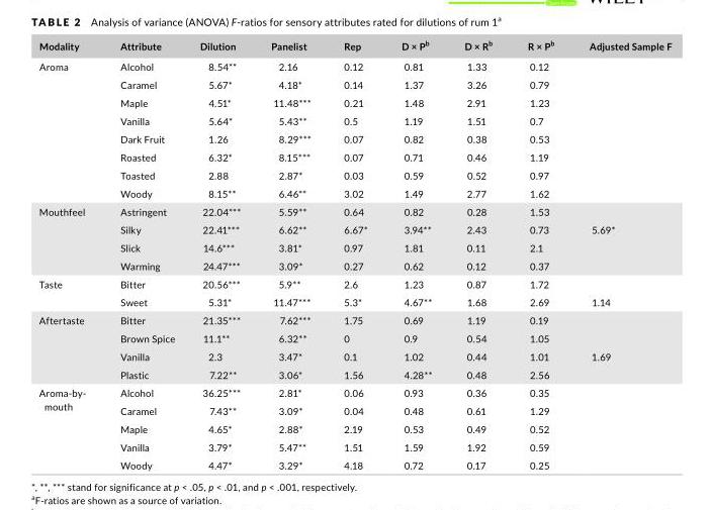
<table><thead><tr><td>Modality</td><td>Attribute</td><td>Dilution</td><td>Panelist</td><td>Rep</td><td>D × P<sup>b</sup></td><td>D × R<sup>b</sup></td><td>R × P<sup>b</sup></td><td>Adjusted Sample F</td></tr></thead><tbody><tr><td rowspan="8">Aroma</td><td>Alcohol</td><td>8.54**</td><td>2.16</td><td>0.12</td><td>0.81</td><td>1.33</td><td>0.12</td><td></td></tr><tr><td>Caramel</td><td>5.67*</td><td>4.18*</td><td>0.14</td><td>1.37</td><td>3.26</td><td>0.79</td><td></td></tr><tr><td>Maple</td><td>4.51*</td><td>11.48***</td><td>0.21</td><td>1.48</td><td>2.91</td><td>1.23</td><td></td></tr><tr><td>Vanilla</td><td>5.64*</td><td>5.43**</td><td>0.5</td><td>1.19</td><td>1.51</td><td>0.7</td><td></td></tr><tr><td>Dark Fruit</td><td>1.26</td><td>8.29***</td><td>0.07</td><td>0.82</td><td>0.38</td><td>0.53</td><td></td></tr><tr><td>Roasted</td><td>6.32*</td><td>8.15***</td><td>0.07</td><td>0.71</td><td>0.46</td><td>1.19</td><td></td></tr><tr><td>Toasted</td><td>2.88</td><td>2.87*</td><td>0.03</td><td>0.59</td><td>0.52</td><td>0.97</td><td></td></tr><tr><td>Woody</td><td>8.15**</td><td>6.46**</td><td>3.02</td><td>1.49</td><td>2.77</td><td>1.62</td><td></td></tr><tr><td rowspan="4">Mouthfeel</td><td>Astringent</td><td>22.04***</td><td>5.59**</td><td>0.64</td><td>0.82</td><td>0.28</td><td>1.53</td><td></td></tr><tr><td>Silky</td><td>22.41***</td><td>6.62**</td><td>6.67*</td><td>3.94**</td><td>2.43</td><td>0.73</td><td>5.69*</td></tr><tr><td>Slick</td><td>14.6***</td><td>3.81*</td><td>0.97</td><td>1.81</td><td>0.11</td><td>2.1</td><td></td></tr><tr><td>Warming</td><td>24.47***</td><td>3.09*</td><td>0.27</td><td>0.62</td><td>0.12</td><td>0.37</td><td></td></tr><tr><td rowspan="2">Taste</td><td>Bitter</td><td>20.56***</td><td>5.9**</td><td>2.6</td><td>1.23</td><td>0.87</td><td>1.72</td><td></td></tr><tr><td>Sweet</td><td>5.31*</td><td>11.47***</td><td>5.3*</td><td>4.67**</td><td>1.68</td><td>2.69</td><td>1.14</td></tr><tr><td rowspan="4">Aftertaste</td><td>Bitter</td><td>21.35***</td><td>7.62***</td><td>1.75</td><td>0.69</td><td>1.19</td><td>0.19</td><td></td></tr><tr><td>Brown Spice</td><td>11.1**</td><td>6.32**</td><td>0</td><td>0.9</td><td>0.54</td><td>1.05</td><td></td></tr><tr><td>Vanilla</td><td>2.3</td><td>3.47*</td><td>0.1</td><td>1.02</td><td>0.44</td><td>1.01</td><td>1.69</td></tr><tr><td>Plastic</td><td>7.22**</td><td>3.06*</td><td>1.56</td><td>4.28**</td><td>0.48</td><td>2.56</td><td></td></tr><tr><td rowspan="5">Aroma- by- mouth</td><td>Alcohol</td><td>36.25***</td><td>2.81*</td><td>0.06</td><td>0.93</td><td>0.36</td><td>0.35</td><td></td></tr><tr><td>Caramel</td><td>7.43**</td><td>3.09*</td><td>0.04</td><td>0.48</td><td>0.61</td><td>1.29</td><td></td></tr><tr><td>Maple</td><td>4.65*</td><td>2.88*</td><td>2.19</td><td>0.53</td><td>0.49</td><td>0.52</td><td></td></tr><tr><td>Vanilla</td><td>3.79*</td><td>5.47**</td><td>1.51</td><td>1.59</td><td>1.92</td><td>0.59</td><td></td></tr><tr><td>Woody</td><td>4.47*</td><td>3.29*</td><td>4.18</td><td>0.72</td><td>0.17</td><td>0.25</td><td></td></tr></tbody></table>